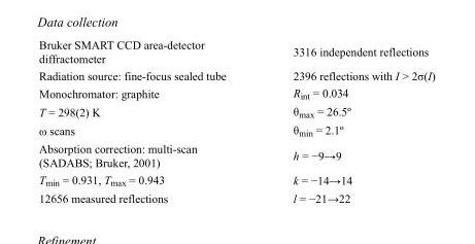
<table><tbody><tr><td>Bruker SMART CCD area-detector diffractometer</td><td>3316 independent reflections</td></tr><tr><td>Radiation source: fine-focus sealed tube</td><td>2396 reflections with I &gt; 2σ(I)</td></tr><tr><td>Monochromator: graphite</td><td>R<sub>int</sub> = 0.034</td></tr><tr><td>T = 298(2) K</td><td>θ<sub>max</sub> = 26.5º</td></tr><tr><td>ω scans</td><td>θ<sub>min</sub> = 2.1º</td></tr><tr><td>Absorption correction: multi-scan (SADABS; Bruker, 2001)</td><td>h = −9→9</td></tr><tr><td>T<sub>min</sub> = 0.931, T<sub>max</sub> = 0.943</td><td>k = −14→14</td></tr><tr><td>12656 measured reflections</td><td>l = −21→22</td></tr></tbody></table>